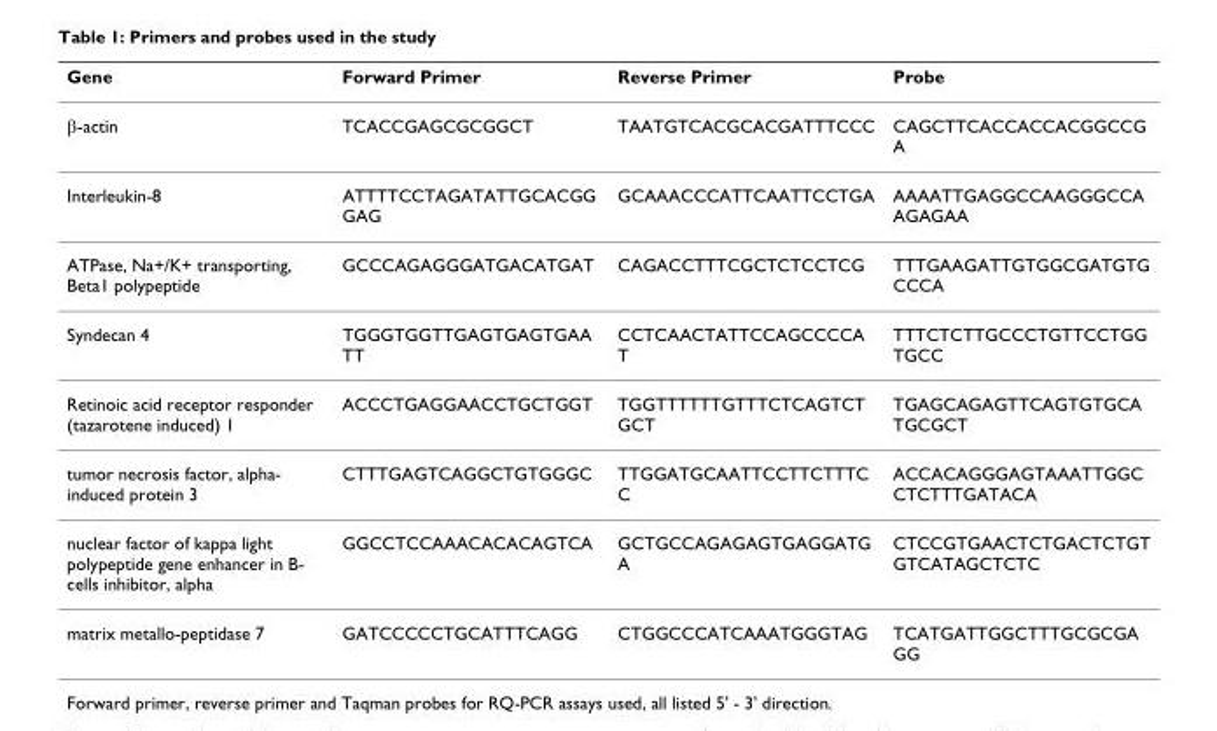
<table><thead><tr><td>Gene</td><td>Forward Primer</td><td>Reverse Primer</td><td>Probe</td></tr></thead><tbody><tr><td>β-actin</td><td>TCACCGAGCGCGGCT</td><td>TAATGTCACGCACGATTTCCC</td><td>CAGCTTCACCACCACGGCCG A</td></tr><tr><td>Interleukin-8</td><td>ATTTTCCTAGATATTGCACGG GAG</td><td>GCAAACCCATTCAATTCCTGA</td><td>AAAATTGAGGCCAAGGGCCA AGAGAA</td></tr><tr><td>ATPase, Na+/K+ transporting, Beta1 polypeptide</td><td>GCCCAGAGGGATGACATGAT</td><td>CAGACCTTTCGCTCTCCTCG</td><td>TTTGAAGATTGTGGCGATGTG CCCA</td></tr><tr><td>Syndecan 4</td><td>TGGGTGGTTGAGTGAGTGAA TT</td><td>CCTCAACTATTCCAGCCCCA T</td><td>TTTCTCTTGCCCTGTTCCTGG TGCC</td></tr><tr><td>Retinoic acid receptor responder (tazarotene induced) 1</td><td>ACCCTGAGGAACCTGCTGGT</td><td>TGGTTTTTTGTTTCTCAGTCT GCT</td><td>TGAGCAGAGTTCAGTGTGCA TGCGCT</td></tr><tr><td>tumor necrosis factor, alpha- induced protein 3</td><td>CTTTGAGTCAGGCTGTGGGC</td><td>TTGGATGCAATTCCTTCTTTC C</td><td>ACCACAGGGAGTAAATTGGC CTCTTTGATACA</td></tr><tr><td>nuclear factor of kappa light polypeptide gene enhancer in B- cells inhibitor, alpha</td><td>GGCCTCCAAACACACAGTCA</td><td>GCTGCCAGAGAGTGAGGATG A</td><td>CTCCGTGAACTCTGACTCTGT GTCATAGCTCTC</td></tr><tr><td>matrix metallo-peptidase 7</td><td>GATCCCCCTGCATTTCAGG</td><td>CTGGCCCATCAAATGGGTAG</td><td>TCATGATTGGCTTTGCGCGA GG</td></tr></tbody></table>